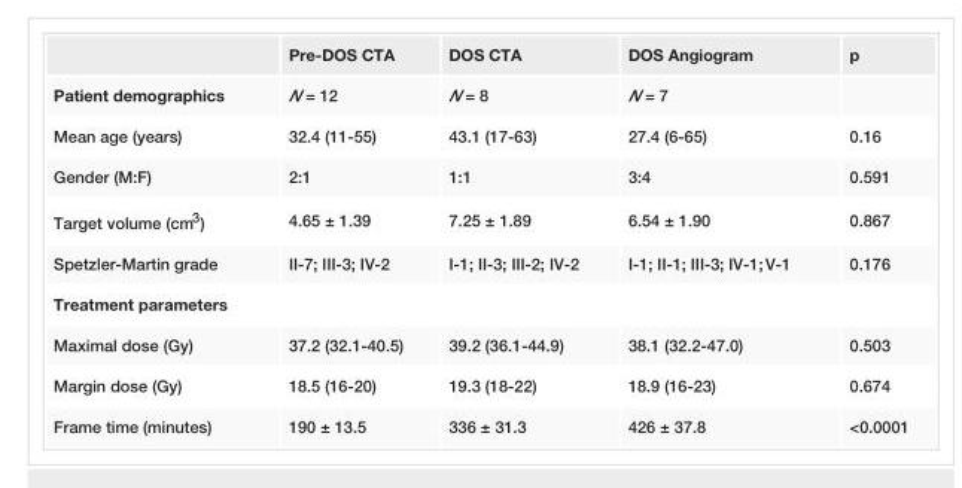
<table><thead><tr><td></td><td>Pre-DOS CTA</td><td>DOS CTA</td><td>DOS Angiogram</td><td>p</td></tr></thead><tbody><tr><td>Patient demographics</td><td>N = 12</td><td>N = 8</td><td>N = 7</td><td></td></tr><tr><td>Mean age (years)</td><td>32.4 (11-55)</td><td>43.1 (17-63)</td><td>27.4 (6-65)</td><td>0.16</td></tr><tr><td>Gender (M:F)</td><td>2:1</td><td>1:1</td><td>3:4</td><td>0.591</td></tr><tr><td>Target volume (cm<sup>3</sup>)</td><td>4.65 ± 1.39</td><td>7.25 ± 1.89</td><td>6.54 ± 1.90</td><td>0.867</td></tr><tr><td>Spetzler-Martin grade</td><td>II-7; III-3; IV-2</td><td>I-1; II-3; III-2; IV-2</td><td>I-1; II-1; III-3; IV-1; V-1</td><td>0.176</td></tr><tr><td colspan="5">Treatment parameters</td></tr><tr><td>Maximal dose (Gy)</td><td>37.2 (32.1-40.5)</td><td>39.2 (36.1-44.9)</td><td>38.1 (32.2-47.0)</td><td>0.503</td></tr><tr><td>Margin dose (Gy)</td><td>18.5 (16-20)</td><td>19.3 (18-22)</td><td>18.9 (16-23)</td><td>0.674</td></tr><tr><td>Frame time (minutes)</td><td>190 ± 13.5</td><td>336 ± 31.3</td><td>426 ± 37.8</td><td>&lt;0.0001</td></tr></tbody></table>